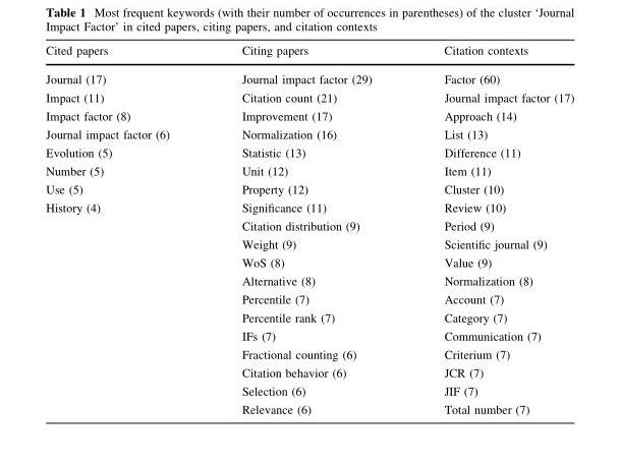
<table><thead><tr><td>Cited papers</td><td>Citing papers</td><td>Citation contexts</td></tr></thead><tbody><tr><td>Journal (17)</td><td>Journal impact factor (29)</td><td>Factor (60)</td></tr><tr><td>Impact (11)</td><td>Citation count (21)</td><td>Journal impact factor (17)</td></tr><tr><td>Impact factor (8)</td><td>Improvement (17)</td><td>Approach (14)</td></tr><tr><td>Journal impact factor (6)</td><td>Normalization (16)</td><td>List (13)</td></tr><tr><td>Evolution (5)</td><td>Statistic (13)</td><td>Difference (11)</td></tr><tr><td>Number (5)</td><td>Unit (12)</td><td>Item (11)</td></tr><tr><td>Use (5)</td><td>Property (12)</td><td>Cluster (10)</td></tr><tr><td rowspan="12">History (4)</td><td>Significance (11)</td><td>Review (10)</td></tr><tr><td>Citation distribution (9)</td><td>Period (9)</td></tr><tr><td>Weight (9)</td><td>Scientific journal (9)</td></tr><tr><td>WoS (8)</td><td>Value (9)</td></tr><tr><td>Alternative (8)</td><td>Normalization (8)</td></tr><tr><td>Percentile (7)</td><td>Account (7)</td></tr><tr><td>Percentile rank (7)</td><td>Category (7)</td></tr><tr><td>IFs (7)</td><td>Communication (7)</td></tr><tr><td>Fractional counting (6)</td><td>Criterium (7)</td></tr><tr><td>Citation behavior (6)</td><td>JCR (7)</td></tr><tr><td>Selection (6)</td><td>JIF (7)</td></tr><tr><td>Relevance (6)</td><td>Total number (7)</td></tr></tbody></table>